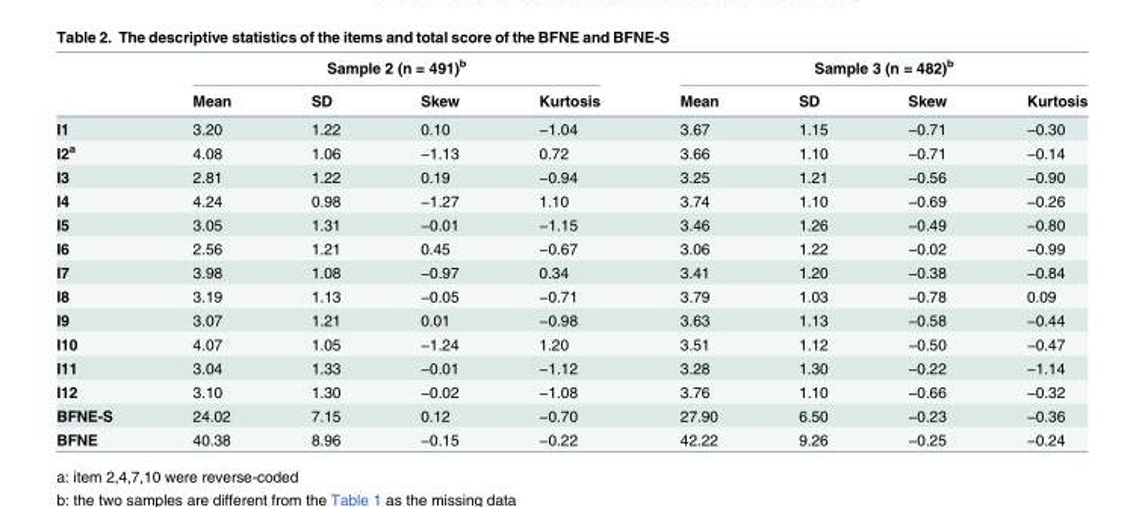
<table><thead><tr><td rowspan="2"></td><td colspan="4">Sample 2 (n = 491)<sup>b</sup></td><td colspan="4">Sample 3 (n = 482)<sup>b</sup></td></tr><tr><td>Mean</td><td>SD</td><td>Skew</td><td>Kurtosis</td><td>Mean</td><td>SD</td><td>Skew</td><td>Kurtosis</td></tr></thead><tbody><tr><td>I1</td><td>3.20</td><td>1.22</td><td>0.10</td><td>−1.04</td><td>3.67</td><td>1.15</td><td>−0.71</td><td>−0.30</td></tr><tr><td>I2<sup>a</sup></td><td>4.08</td><td>1.06</td><td>−1.13</td><td>0.72</td><td>3.66</td><td>1.10</td><td>−0.71</td><td>−0.14</td></tr><tr><td>I3</td><td>2.81</td><td>1.22</td><td>0.19</td><td>−0.94</td><td>3.25</td><td>1.21</td><td>−0.56</td><td>−0.90</td></tr><tr><td>I4</td><td>4.24</td><td>0.98</td><td>−1.27</td><td>1.10</td><td>3.74</td><td>1.10</td><td>−0.69</td><td>−0.26</td></tr><tr><td>I5</td><td>3.05</td><td>1.31</td><td>−0.01</td><td>−1.15</td><td>3.46</td><td>1.26</td><td>−0.49</td><td>−0.80</td></tr><tr><td>I6</td><td>2.56</td><td>1.21</td><td>0.45</td><td>−0.67</td><td>3.06</td><td>1.22</td><td>−0.02</td><td>−0.99</td></tr><tr><td>I7</td><td>3.98</td><td>1.08</td><td>−0.97</td><td>0.34</td><td>3.41</td><td>1.20</td><td>−0.38</td><td>−0.84</td></tr><tr><td>I8</td><td>3.19</td><td>1.13</td><td>−0.05</td><td>−0.71</td><td>3.79</td><td>1.03</td><td>−0.78</td><td>0.09</td></tr><tr><td>I9</td><td>3.07</td><td>1.21</td><td>0.01</td><td>−0.98</td><td>3.63</td><td>1.13</td><td>−0.58</td><td>−0.44</td></tr><tr><td>I10</td><td>4.07</td><td>1.05</td><td>−1.24</td><td>1.20</td><td>3.51</td><td>1.12</td><td>−0.50</td><td>−0.47</td></tr><tr><td>I11</td><td>3.04</td><td>1.33</td><td>−0.01</td><td>−1.12</td><td>3.28</td><td>1.30</td><td>−0.22</td><td>−1.14</td></tr><tr><td>I12</td><td>3.10</td><td>1.30</td><td>−0.02</td><td>−1.08</td><td>3.76</td><td>1.10</td><td>−0.66</td><td>−0.32</td></tr><tr><td>BFNE-S</td><td>24.02</td><td>7.15</td><td>0.12</td><td>−0.70</td><td>27.90</td><td>6.50</td><td>−0.23</td><td>−0.36</td></tr><tr><td>BFNE</td><td>40.38</td><td>8.96</td><td>−0.15</td><td>−0.22</td><td>42.22</td><td>9.26</td><td>−0.25</td><td>−0.24</td></tr></tbody></table>